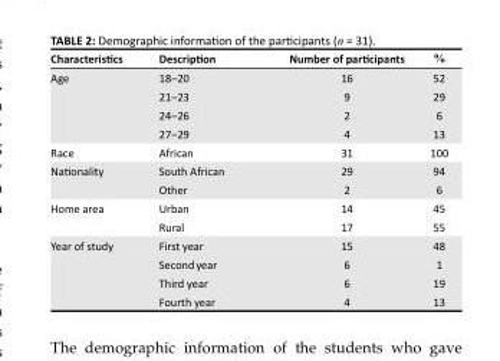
<table><thead><tr><td>Characteristics</td><td>Description</td><td>Number of participants</td><td>%</td></tr></thead><tbody><tr><td rowspan="4">Age</td><td>18‒20</td><td>16</td><td>52</td></tr><tr><td>21‒23</td><td>9</td><td>29</td></tr><tr><td>24‒26</td><td>2</td><td>6</td></tr><tr><td>27‒29</td><td>4</td><td>13</td></tr><tr><td>Race</td><td>African</td><td>31</td><td>100</td></tr><tr><td rowspan="2">Nationality</td><td>South African</td><td>29</td><td>94</td></tr><tr><td>Other</td><td>2</td><td>6</td></tr><tr><td rowspan="2">Home area</td><td>Urban</td><td>14</td><td>45</td></tr><tr><td>Rural</td><td>17</td><td>55</td></tr><tr><td rowspan="4">Year of study</td><td>First year</td><td>15</td><td>48</td></tr><tr><td>Second year</td><td>6</td><td>1</td></tr><tr><td>Third year</td><td>6</td><td>19</td></tr><tr><td>Fourth year</td><td>4</td><td>13</td></tr></tbody></table>